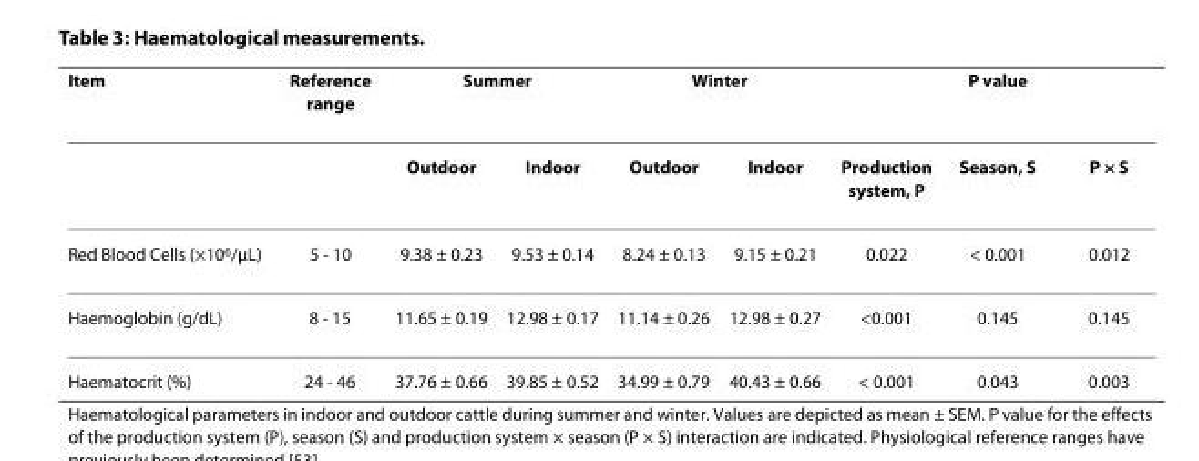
<table><thead><tr><td rowspan="2">Item</td><td rowspan="2">Reference range</td><td colspan="2">Summer</td><td colspan="2">Winter</td><td colspan="3">P value</td></tr><tr><td>Outdoor</td><td>Indoor</td><td>Outdoor</td><td>Indoor</td><td>Production system, P</td><td>Season, S</td><td>P × S</td></tr></thead><tbody><tr><td>Red Blood Cells (×106/μL)</td><td>5 - 10</td><td>9.38 ± 0.23</td><td>9.53 ± 0.14</td><td>8.24 ± 0.13</td><td>9.15 ± 0.21</td><td>0.022</td><td>&lt; 0.001</td><td>0.012</td></tr><tr><td>Haemoglobin (g/dL)</td><td>8 - 15</td><td>11.65 ± 0.19</td><td>12.98 ± 0.17</td><td>11.14 ± 0.26</td><td>12.98 ± 0.27</td><td>&lt;0.001</td><td>0.145</td><td>0.145</td></tr><tr><td>Haematocrit (%)</td><td>24 - 46</td><td>37.76 ± 0.66</td><td>39.85 ± 0.52</td><td>34.99 ± 0.79</td><td>40.43 ± 0.66</td><td>&lt; 0.001</td><td>0.043</td><td>0.003</td></tr></tbody></table>